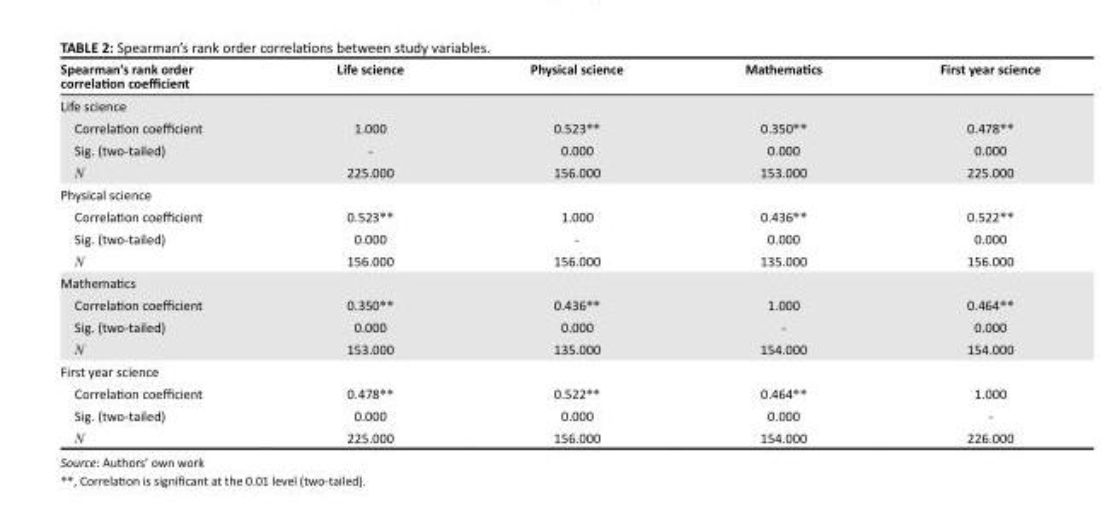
<table><thead><tr><td>Spearman’s rank order correlation coefficient</td><td>Life science</td><td>Physical science</td><td>Mathematics</td><td>First year science</td></tr></thead><tbody><tr><td colspan="5">Life science</td></tr><tr><td>Correlation coefficient</td><td>1.000</td><td>0.523**</td><td>0.350**</td><td>0.478**</td></tr><tr><td>Sig. (two-tailed)</td><td>-</td><td>0.000</td><td>0.000</td><td>0.000</td></tr><tr><td>N</td><td>225.000</td><td>156.000</td><td>153.000</td><td>225.000</td></tr><tr><td colspan="5">Physical science</td></tr><tr><td>Correlation coefficient</td><td>0.523**</td><td>1.000</td><td>0.436**</td><td>0.522**</td></tr><tr><td>Sig. (two-tailed)</td><td>0.000</td><td>-</td><td>0.000</td><td>0.000</td></tr><tr><td>N</td><td>156.000</td><td>156.000</td><td>135.000</td><td>156.000</td></tr><tr><td colspan="5">Mathematics</td></tr><tr><td>Correlation coefficient</td><td>0.350**</td><td>0.436**</td><td>1.000</td><td>0.464**</td></tr><tr><td>Sig. (two-tailed)</td><td>0.000</td><td>0.000</td><td>-</td><td>0.000</td></tr><tr><td>N</td><td>153.000</td><td>135.000</td><td>154.000</td><td>154.000</td></tr><tr><td colspan="5">First year science</td></tr><tr><td>Correlation coefficient</td><td>0.478**</td><td>0.522**</td><td>0.464**</td><td>1.000</td></tr><tr><td>Sig. (two-tailed)</td><td>0.000</td><td>0.000</td><td>0.000</td><td>-</td></tr><tr><td>N</td><td>225.000</td><td>156.000</td><td>154.000</td><td>226.000</td></tr></tbody></table>